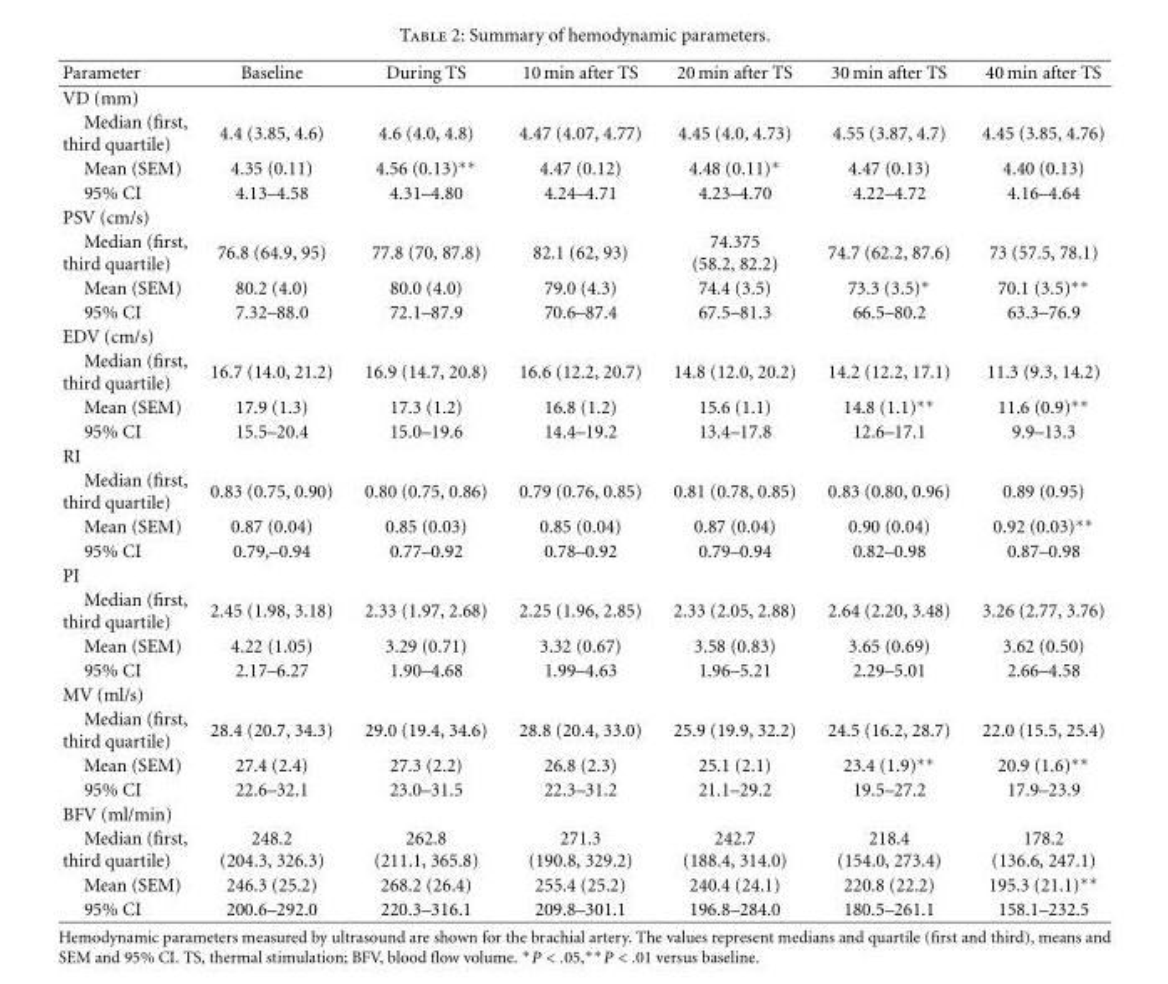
<table><thead><tr><td>Parameter</td><td>Baseline</td><td>During TS</td><td>10 min after TS</td><td>20 min after TS</td><td>30 min after TS</td><td>40 min after TS</td></tr></thead><tbody><tr><td colspan="7">VD (mm)</td></tr><tr><td>Median (first, third quartile)</td><td>4.4 (3.85, 4.6)</td><td>4.6 (4.0, 4.8)</td><td>4.47 (4.07, 4.77)</td><td>4.45 (4.0, 4.73)</td><td>4.55 (3.87, 4.7)</td><td>4.45 (3.85, 4.76)</td></tr><tr><td>Mean (SEM)</td><td>4.35 (0.11)</td><td>4.56 (0.13)∗∗</td><td>4.47 (0.12)</td><td>4.48 (0.11)∗</td><td>4.47 (0.13)</td><td>4.40 (0.13)</td></tr><tr><td>95% CI</td><td>4.13–4.58</td><td>4.31–4.80</td><td>4.24–4.71</td><td>4.23–4.70</td><td>4.22–4.72</td><td>4.16–4.64</td></tr><tr><td colspan="7">PSV (cm/s)</td></tr><tr><td>Median (first, third quartile)</td><td>76.8 (64.9, 95)</td><td>77.8 (70, 87.8)</td><td>82.1 (62, 93)</td><td>74.375 (58.2, 82.2)</td><td>74.7 (62.2, 87.6)</td><td>73 (57.5, 78.1)</td></tr><tr><td>Mean (SEM)</td><td>80.2 (4.0)</td><td>80.0 (4.0)</td><td>79.0 (4.3)</td><td>74.4 (3.5)</td><td>73.3 (3.5)∗</td><td>70.1 (3.5)∗∗</td></tr><tr><td>95% CI</td><td>7.32–88.0</td><td>72.1–87.9</td><td>70.6–87.4</td><td>67.5–81.3</td><td>66.5–80.2</td><td>63.3–76.9</td></tr><tr><td colspan="7">EDV (cm/s)</td></tr><tr><td>Median (first, third quartile)</td><td>16.7 (14.0, 21.2)</td><td>16.9 (14.7, 20.8)</td><td>16.6 (12.2, 20.7)</td><td>14.8 (12.0, 20.2)</td><td>14.2 (12.2, 17.1)</td><td>11.3 (9.3, 14.2)</td></tr><tr><td>Mean (SEM)</td><td>17.9 (1.3)</td><td>17.3 (1.2)</td><td>16.8 (1.2)</td><td>15.6 (1.1)</td><td>14.8 (1.1)∗∗</td><td>11.6 (0.9)∗∗</td></tr><tr><td>95% CI</td><td>15.5–20.4</td><td>15.0–19.6</td><td>14.4–19.2</td><td>13.4–17.8</td><td>12.6–17.1</td><td>9.9–13.3</td></tr><tr><td colspan="7">RI</td></tr><tr><td>Median (first, third quartile)</td><td>0.83 (0.75, 0.90)</td><td>0.80 (0.75, 0.86)</td><td>0.79 (0.76, 0.85)</td><td>0.81 (0.78, 0.85)</td><td>0.83 (0.80, 0.96)</td><td>0.89 (0.95)</td></tr><tr><td>Mean (SEM)</td><td>0.87 (0.04)</td><td>0.85 (0.03)</td><td>0.85 (0.04)</td><td>0.87 (0.04)</td><td>0.90 (0.04)</td><td>0.92 (0.03)∗∗</td></tr><tr><td>95% CI</td><td>0.79,–0.94</td><td>0.77–0.92</td><td>0.78–0.92</td><td>0.79–0.94</td><td>0.82–0.98</td><td>0.87–0.98</td></tr><tr><td colspan="7">PI</td></tr><tr><td>Median (first, third quartile)</td><td>2.45 (1.98, 3.18)</td><td>2.33 (1.97, 2.68)</td><td>2.25 (1.96, 2.85)</td><td>2.33 (2.05, 2.88)</td><td>2.64 (2.20, 3.48)</td><td>3.26 (2.77, 3.76)</td></tr><tr><td>Mean (SEM)</td><td>4.22 (1.05)</td><td>3.29 (0.71)</td><td>3.32 (0.67)</td><td>3.58 (0.83)</td><td>3.65 (0.69)</td><td>3.62 (0.50)</td></tr><tr><td>95% CI</td><td>2.17–6.27</td><td>1.90–4.68</td><td>1.99–4.63</td><td>1.96–5.21</td><td>2.29–5.01</td><td>2.66–4.58</td></tr><tr><td colspan="7">MV (ml/s)</td></tr><tr><td>Median (first, third quartile)</td><td>28.4 (20.7, 34.3)</td><td>29.0 (19.4, 34.6)</td><td>28.8 (20.4, 33.0)</td><td>25.9 (19.9, 32.2)</td><td>24.5 (16.2, 28.7)</td><td>22.0 (15.5, 25.4)</td></tr><tr><td>Mean (SEM)</td><td>27.4 (2.4)</td><td>27.3 (2.2)</td><td>26.8 (2.3)</td><td>25.1 (2.1)</td><td>23.4 (1.9)∗∗</td><td>20.9 (1.6)∗∗</td></tr><tr><td>95% CI</td><td>22.6–32.1</td><td>23.0–31.5</td><td>22.3–31.2</td><td>21.1–29.2</td><td>19.5–27.2</td><td>17.9–23.9</td></tr><tr><td colspan="7">BFV (ml/min)</td></tr><tr><td>Median (first, third quartile)</td><td>248.2 (204.3, 326.3)</td><td>262.8 (211.1, 365.8)</td><td>271.3 (190.8, 329.2)</td><td>242.7 (188.4, 314.0)</td><td>218.4 (154.0, 273.4)</td><td>178.2 (136.6, 247.1)</td></tr><tr><td>Mean (SEM)</td><td>246.3 (25.2)</td><td>268.2 (26.4)</td><td>255.4 (25.2)</td><td>240.4 (24.1)</td><td>220.8 (22.2)</td><td>195.3 (21.1)∗∗</td></tr><tr><td>95% CI</td><td>200.6–292.0</td><td>220.3–316.1</td><td>209.8–301.1</td><td>196.8–284.0</td><td>180.5–261.1</td><td>158.1–232.5</td></tr></tbody></table>